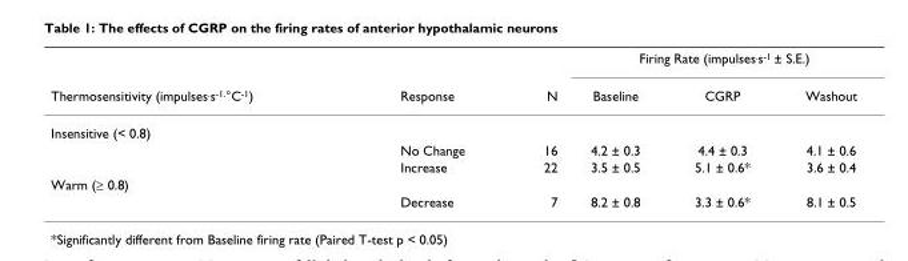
<table><thead><tr><td rowspan="2">Thermosensitivity (impulses<sup>.</sup>s<sup>-1.</sup>°C<sup>-1</sup>)</td><td rowspan="2">Response</td><td rowspan="2">N</td><td colspan="3">Firing Rate (impulses<sup>.</sup>s<sup>-1</sup> ± S.E.)</td></tr><tr><td>Baseline</td><td>CGRP</td><td>Washout</td></tr></thead><tbody><tr><td colspan="6">Insensitive (&lt; 0.8)</td></tr><tr><td></td><td>No Change</td><td>16</td><td>4.2 ± 0.3</td><td>4.4 ± 0.3</td><td>4.1 ± 0.6</td></tr><tr><td></td><td>Increase</td><td>22</td><td>3.5 ± 0.5</td><td>5.1 ± 0.6*</td><td>3.6 ± 0.4</td></tr><tr><td colspan="6">Warm (≥ 0.8)</td></tr><tr><td></td><td>Decrease</td><td>7</td><td>8.2 ± 0.8</td><td>3.3 ± 0.6*</td><td>8.1 ± 0.5</td></tr></tbody></table>